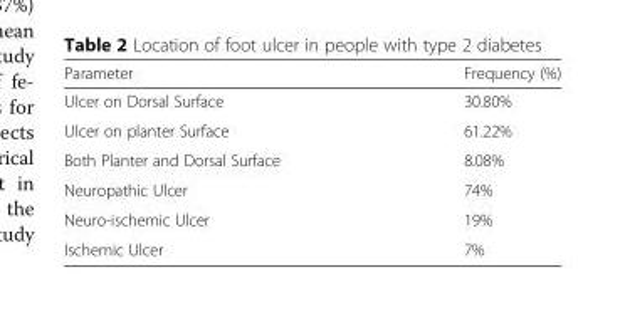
<table><thead><tr><td>Parameter</td><td>Frequency (%)</td></tr></thead><tbody><tr><td>Ulcer on Dorsal Surface</td><td>30.80%</td></tr><tr><td>Ulcer on planter Surface</td><td>61.22%</td></tr><tr><td>Both Planter and Dorsal Surface</td><td>8.08%</td></tr><tr><td>Neuropathic Ulcer</td><td>74%</td></tr><tr><td>Neuro-ischemic Ulcer</td><td>19%</td></tr><tr><td>Ischemic Ulcer</td><td>7%</td></tr></tbody></table>